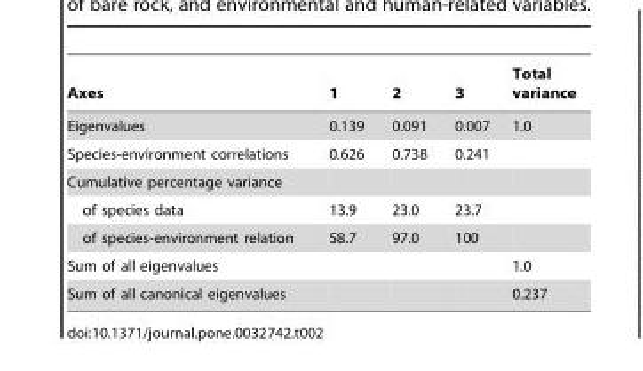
<table><thead><tr><td>Axes</td><td>1</td><td>2</td><td>3</td><td>Total variance</td></tr></thead><tbody><tr><td>Eigenvalues</td><td>0.139</td><td>0.091</td><td>0.007</td><td>1.0</td></tr><tr><td>Species-environment correlations</td><td>0.626</td><td>0.738</td><td>0.241</td><td></td></tr><tr><td colspan="5">Cumulative percentage variance</td></tr><tr><td>of species data</td><td>13.9</td><td>23.0</td><td>23.7</td><td></td></tr><tr><td>of species-environment relation</td><td>58.7</td><td>97.0</td><td>100</td><td></td></tr><tr><td>Sum of all eigenvalues</td><td></td><td></td><td></td><td>1.0</td></tr><tr><td>Sum of all canonical eigenvalues</td><td></td><td></td><td></td><td>0.237</td></tr></tbody></table>